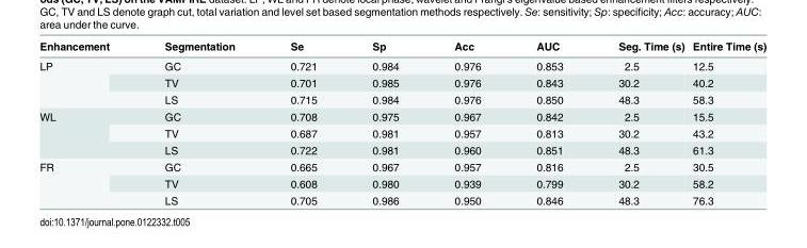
<table><thead><tr><td>Enhancement</td><td>Segmentation</td><td>Se</td><td>Sp</td><td>Acc</td><td>AUC</td><td>Seg. Time (s)</td><td>Entire Time (s)</td></tr></thead><tbody><tr><td rowspan="3">LP</td><td>GC</td><td>0.721</td><td>0.984</td><td>0.976</td><td>0.853</td><td>2.5</td><td>12.5</td></tr><tr><td>TV</td><td>0.701</td><td>0.985</td><td>0.976</td><td>0.843</td><td>30.2</td><td>40.2</td></tr><tr><td>LS</td><td>0.715</td><td>0.984</td><td>0.976</td><td>0.850</td><td>48.3</td><td>58.3</td></tr><tr><td rowspan="3">WL</td><td>GC</td><td>0.708</td><td>0.975</td><td>0.967</td><td>0.842</td><td>2.5</td><td>15.5</td></tr><tr><td>TV</td><td>0.687</td><td>0.981</td><td>0.957</td><td>0.813</td><td>30.2</td><td>43.2</td></tr><tr><td>LS</td><td>0.722</td><td>0.981</td><td>0.960</td><td>0.851</td><td>48.3</td><td>61.3</td></tr><tr><td rowspan="3">FR</td><td>GC</td><td>0.665</td><td>0.967</td><td>0.957</td><td>0.816</td><td>2.5</td><td>30.5</td></tr><tr><td>TV</td><td>0.608</td><td>0.980</td><td>0.939</td><td>0.799</td><td>30.2</td><td>58.2</td></tr><tr><td>LS</td><td>0.705</td><td>0.986</td><td>0.950</td><td>0.846</td><td>48.3</td><td>76.3</td></tr></tbody></table>